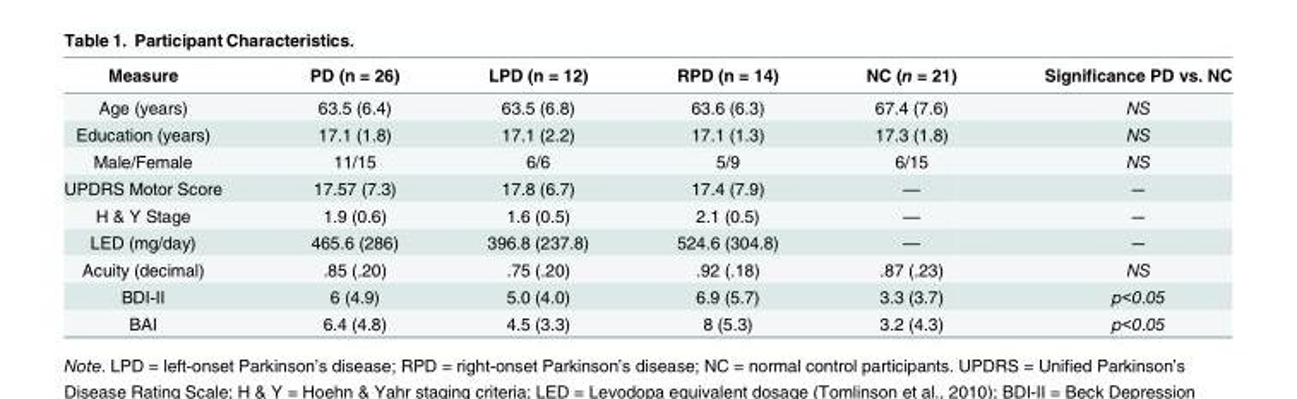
<table><thead><tr><td>Measure</td><td>PD (n = 26)</td><td>LPD (n = 12)</td><td>RPD (n = 14)</td><td>NC (n = 21)</td><td>Significance PD vs. NC</td></tr></thead><tbody><tr><td>Age (years)</td><td>63.5 (6.4)</td><td>63.5 (6.8)</td><td>63.6 (6.3)</td><td>67.4 (7.6)</td><td>NS</td></tr><tr><td>Education (years)</td><td>17.1 (1.8)</td><td>17.1 (2.2)</td><td>17.1 (1.3)</td><td>17.3 (1.8)</td><td>NS</td></tr><tr><td>Male/Female</td><td>11/15</td><td>6/6</td><td>5/9</td><td>6/15</td><td>NS</td></tr><tr><td>UPDRS Motor Score</td><td>17.57 (7.3)</td><td>17.8 (6.7)</td><td>17.4 (7.9)</td><td>—</td><td>—</td></tr><tr><td>H &amp; Y Stage</td><td>1.9 (0.6)</td><td>1.6 (0.5)</td><td>2.1 (0.5)</td><td>—</td><td>—</td></tr><tr><td>LED (mg/day)</td><td>465.6 (286)</td><td>396.8 (237.8)</td><td>524.6 (304.8)</td><td>—</td><td>—</td></tr><tr><td>Acuity (decimal)</td><td>.85 (.20)</td><td>.75 (.20)</td><td>.92 (.18)</td><td>.87 (.23)</td><td>NS</td></tr><tr><td>BDI-II</td><td>6 (4.9)</td><td>5.0 (4.0)</td><td>6.9 (5.7)</td><td>3.3 (3.7)</td><td>p&lt;0.05</td></tr><tr><td>BAI</td><td>6.4 (4.8)</td><td>4.5 (3.3)</td><td>8 (5.3)</td><td>3.2 (4.3)</td><td>p&lt;0.05</td></tr></tbody></table>